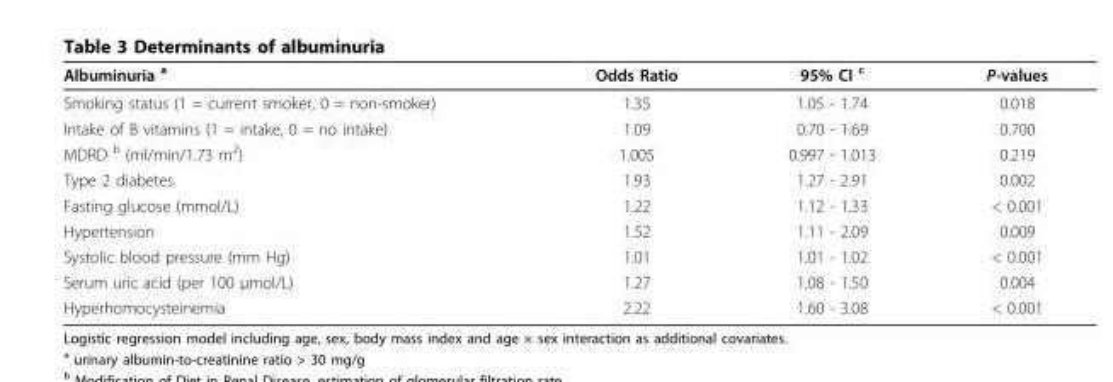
<table><thead><tr><td>Albuminuria <sup>a</sup></td><td>Odds Ratio</td><td>95% CI <sup>c</sup></td><td>P-values</td></tr></thead><tbody><tr><td>Smoking status (1 = current smoker, 0 = non-smoker)</td><td>1.35</td><td>1.05 - 1.74</td><td>0.018</td></tr><tr><td>Intake of B vitamins (1 = intake, 0 = no intake)</td><td>1.09</td><td>0.70 - 1.69</td><td>0.700</td></tr><tr><td>MDRD <sup>b</sup> (ml/min/1.73 m<sup>2</sup>)</td><td>1.005</td><td>0.997 - 1.013</td><td>0.219</td></tr><tr><td>Type 2 diabetes</td><td>1.93</td><td>1.27 - 2.91</td><td>0.002</td></tr><tr><td>Fasting glucose (mmol/L)</td><td>1.22</td><td>1.12 - 1.33</td><td>&lt; 0.001</td></tr><tr><td>Hypertension</td><td>1.52</td><td>1.11 - 2.09</td><td>0.009</td></tr><tr><td>Systolic blood pressure (mm Hg)</td><td>1.01</td><td>1.01 - 1.02</td><td>&lt; 0.001</td></tr><tr><td>Serum uric acid (per 100 μmol/L)</td><td>1.27</td><td>1.08 - 1.50</td><td>0.004</td></tr><tr><td>Hyperhomocysteinemia</td><td>2.22</td><td>1.60 - 3.08</td><td>&lt; 0.001</td></tr></tbody></table>